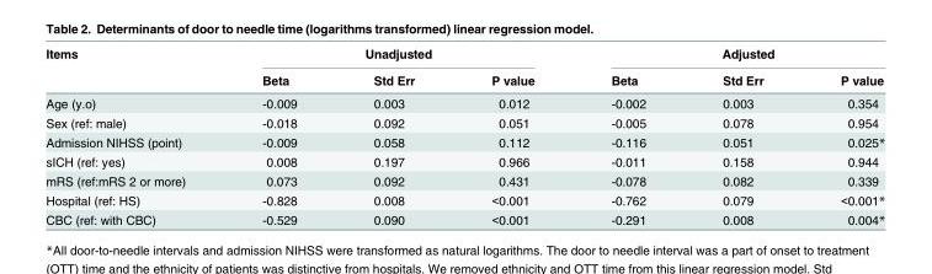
<table><thead><tr><td rowspan="2">Items</td><td colspan="3">Unadjusted</td><td colspan="3">Adjusted</td></tr><tr><td>Beta</td><td>Std Err</td><td>P value</td><td>Beta</td><td>Std Err</td><td>P value</td></tr></thead><tbody><tr><td>Age (y.o)</td><td>-0.009</td><td>0.003</td><td>0.012</td><td>-0.002</td><td>0.003</td><td>0.354</td></tr><tr><td>Sex (ref: male)</td><td>-0.018</td><td>0.092</td><td>0.051</td><td>-0.005</td><td>0.078</td><td>0.954</td></tr><tr><td>Admission NIHSS (point)</td><td>-0.009</td><td>0.058</td><td>0.112</td><td>-0.116</td><td>0.051</td><td>0.025*</td></tr><tr><td>sICH (ref: yes)</td><td>0.008</td><td>0.197</td><td>0.966</td><td>-0.011</td><td>0.158</td><td>0.944</td></tr><tr><td>mRS (ref:mRS 2 or more)</td><td>0.073</td><td>0.092</td><td>0.431</td><td>-0.078</td><td>0.082</td><td>0.339</td></tr><tr><td>Hospital (ref: HS)</td><td>-0.828</td><td>0.008</td><td>&lt;0.001</td><td>-0.762</td><td>0.079</td><td>&lt;0.001*</td></tr><tr><td>CBC (ref: with CBC)</td><td>-0.529</td><td>0.090</td><td>&lt;0.001</td><td>-0.291</td><td>0.008</td><td>0.004*</td></tr></tbody></table>